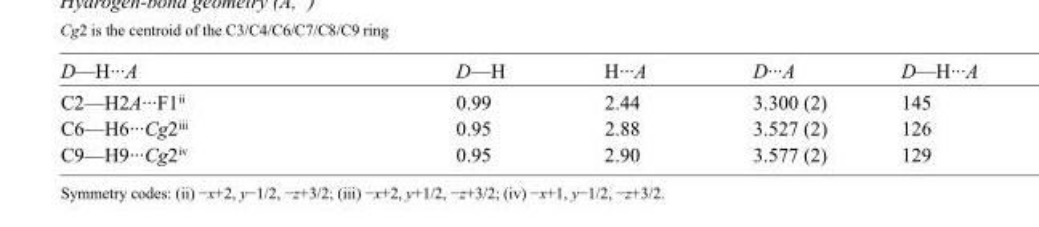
<table><tbody><tr><td>D—H···A</td><td>D—H</td><td>H···A</td><td>D···A</td><td>D—H···A</td></tr><tr><td>C2—H2A···F1<sup>ii</sup></td><td>0.99</td><td>2.44</td><td>3.300 (2)</td><td>145</td></tr><tr><td>C6—H6···Cg2<sup>iii</sup></td><td>0.95</td><td>2.88</td><td>3.527 (2)</td><td>126</td></tr><tr><td>C9—H9···Cg2<sup>iv</sup></td><td>0.95</td><td>2.90</td><td>3.577 (2)</td><td>129</td></tr></tbody></table>